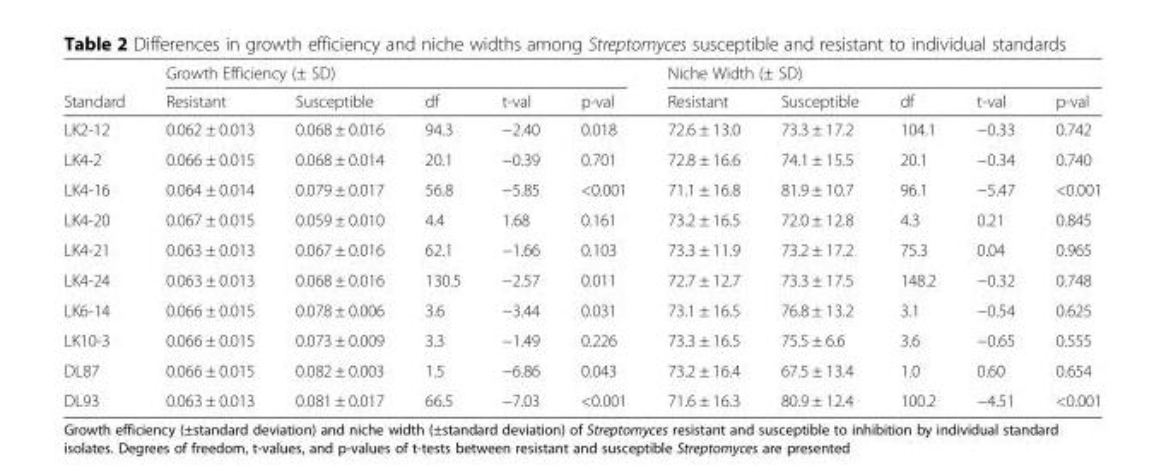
<table><thead><tr><td rowspan="2">Standard</td><td colspan="5">Growth Efficiency (± SD)</td><td colspan="5">Niche Width (± SD)</td></tr><tr><td>Resistant</td><td>Susceptible</td><td>df</td><td>t-val</td><td>p-val</td><td>Resistant</td><td>Susceptible</td><td>df</td><td>t-val</td><td>p-val</td></tr></thead><tbody><tr><td>LK2-12</td><td>0.062 ± 0.013</td><td>0.068 ± 0.016</td><td>94.3</td><td>−2.40</td><td>0.018</td><td>72.6 ± 13.0</td><td>73.3 ± 17.2</td><td>104.1</td><td>−0.33</td><td>0.742</td></tr><tr><td>LK4-2</td><td>0.066 ± 0.015</td><td>0.068 ± 0.014</td><td>20.1</td><td>−0.39</td><td>0.701</td><td>72.8 ± 16.6</td><td>74.1 ± 15.5</td><td>20.1</td><td>−0.34</td><td>0.740</td></tr><tr><td>LK4-16</td><td>0.064 ± 0.014</td><td>0.079 ± 0.017</td><td>56.8</td><td>−5.85</td><td>&lt;0.001</td><td>71.1 ± 16.8</td><td>81.9 ± 10.7</td><td>96.1</td><td>−5.47</td><td>&lt;0.001</td></tr><tr><td>LK4-20</td><td>0.067 ± 0.015</td><td>0.059 ± 0.010</td><td>4.4</td><td>1.68</td><td>0.161</td><td>73.2 ± 16.5</td><td>72.0 ± 12.8</td><td>4.3</td><td>0.21</td><td>0.845</td></tr><tr><td>LK4-21</td><td>0.063 ± 0.013</td><td>0.067 ± 0.016</td><td>62.1</td><td>−1.66</td><td>0.103</td><td>73.3 ± 11.9</td><td>73.2 ± 17.2</td><td>75.3</td><td>0.04</td><td>0.965</td></tr><tr><td>LK4-24</td><td>0.063 ± 0.013</td><td>0.068 ± 0.016</td><td>130.5</td><td>−2.57</td><td>0.011</td><td>72.7 ± 12.7</td><td>73.3 ± 17.5</td><td>148.2</td><td>−0.32</td><td>0.748</td></tr><tr><td>LK6-14</td><td>0.066 ± 0.015</td><td>0.078 ± 0.006</td><td>3.6</td><td>−3.44</td><td>0.031</td><td>73.1 ± 16.5</td><td>76.8 ± 13.2</td><td>3.1</td><td>−0.54</td><td>0.625</td></tr><tr><td>LK10-3</td><td>0.066 ± 0.015</td><td>0.073 ± 0.009</td><td>3.3</td><td>−1.49</td><td>0.226</td><td>73.3 ± 16.5</td><td>75.5 ± 6.6</td><td>3.6</td><td>−0.65</td><td>0.555</td></tr><tr><td>DL87</td><td>0.066 ± 0.015</td><td>0.082 ± 0.003</td><td>1.5</td><td>−6.86</td><td>0.043</td><td>73.2 ± 16.4</td><td>67.5 ± 13.4</td><td>1.0</td><td>0.60</td><td>0.654</td></tr><tr><td>DL93</td><td>0.063 ± 0.013</td><td>0.081 ± 0.017</td><td>66.5</td><td>−7.03</td><td>&lt;0.001</td><td>71.6 ± 16.3</td><td>80.9 ± 12.4</td><td>100.2</td><td>−4.51</td><td>&lt;0.001</td></tr></tbody></table>